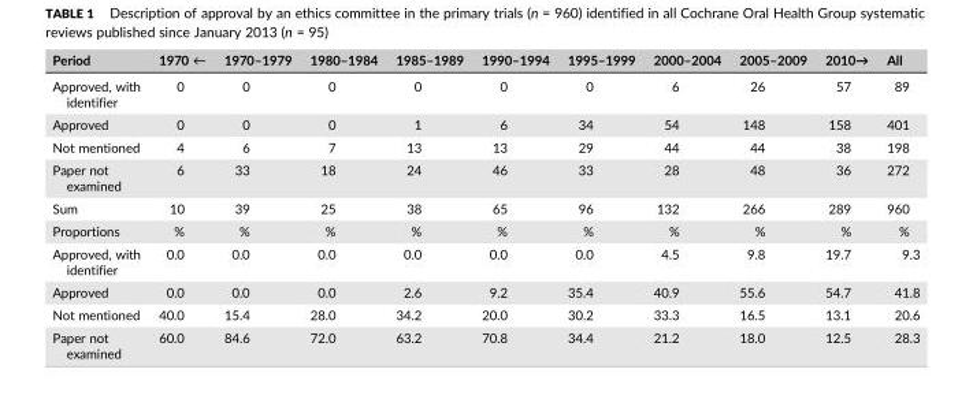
<table><thead><tr><td>Period</td><td>1970 ←</td><td>1970–1979</td><td>1980–1984</td><td>1985–1989</td><td>1990–1994</td><td>1995–1999</td><td>2000–2004</td><td>2005–2009</td><td>2010→</td><td>All</td></tr></thead><tbody><tr><td>Approved, with identifier</td><td>0</td><td>0</td><td>0</td><td>0</td><td>0</td><td>0</td><td>6</td><td>26</td><td>57</td><td>89</td></tr><tr><td>Approved</td><td>0</td><td>0</td><td>0</td><td>1</td><td>6</td><td>34</td><td>54</td><td>148</td><td>158</td><td>401</td></tr><tr><td>Not mentioned</td><td>4</td><td>6</td><td>7</td><td>13</td><td>13</td><td>29</td><td>44</td><td>44</td><td>38</td><td>198</td></tr><tr><td>Paper not examined</td><td>6</td><td>33</td><td>18</td><td>24</td><td>46</td><td>33</td><td>28</td><td>48</td><td>36</td><td>272</td></tr><tr><td>Sum</td><td>10</td><td>39</td><td>25</td><td>38</td><td>65</td><td>96</td><td>132</td><td>266</td><td>289</td><td>960</td></tr><tr><td>Proportions</td><td>%</td><td>%</td><td>%</td><td>%</td><td>%</td><td>%</td><td>%</td><td>%</td><td>%</td><td>%</td></tr><tr><td>Approved, with identifier</td><td>0.0</td><td>0.0</td><td>0.0</td><td>0.0</td><td>0.0</td><td>0.0</td><td>4.5</td><td>9.8</td><td>19.7</td><td>9.3</td></tr><tr><td>Approved</td><td>0.0</td><td>0.0</td><td>0.0</td><td>2.6</td><td>9.2</td><td>35.4</td><td>40.9</td><td>55.6</td><td>54.7</td><td>41.8</td></tr><tr><td>Not mentioned</td><td>40.0</td><td>15.4</td><td>28.0</td><td>34.2</td><td>20.0</td><td>30.2</td><td>33.3</td><td>16.5</td><td>13.1</td><td>20.6</td></tr><tr><td>Paper not examined</td><td>60.0</td><td>84.6</td><td>72.0</td><td>63.2</td><td>70.8</td><td>34.4</td><td>21.2</td><td>18.0</td><td>12.5</td><td>28.3</td></tr></tbody></table>